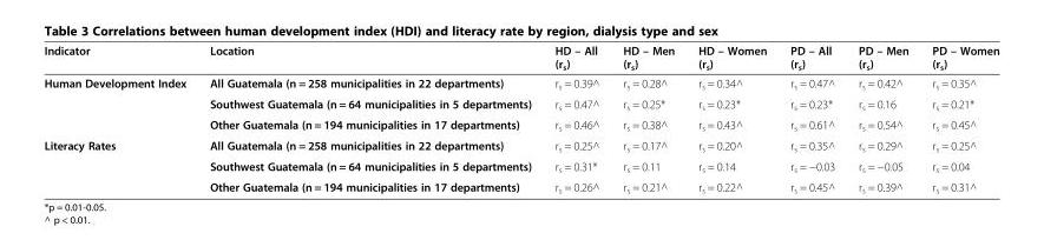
<table><thead><tr><td>Indicator</td><td>Location</td><td>HD – All (r<sub>s</sub>)</td><td>HD – Men (r<sub>s</sub>)</td><td>HD – Women (r<sub>s</sub>)</td><td>PD – All (r<sub>s</sub>)</td><td>PD – Men (r<sub>s</sub>)</td><td>PD – Women (r<sub>s</sub>)</td></tr></thead><tbody><tr><td rowspan="3">Human Development Index</td><td>All Guatemala (n = 258 municipalities in 22 departments)</td><td>r<sub>s</sub> = 0.39^</td><td>r<sub>s</sub> = 0.28^</td><td>r<sub>s</sub> = 0.34^</td><td>r<sub>s</sub> = 0.47^</td><td>r<sub>s</sub> = 0.42^</td><td>r<sub>s</sub> = 0.35^</td></tr><tr><td>Southwest Guatemala (n = 64 municipalities in 5 departments)</td><td>r<sub>s</sub> = 0.47^</td><td>r<sub>s</sub> = 0.25*</td><td>r<sub>s</sub> = 0.23*</td><td>r<sub>s</sub> = 0.23*</td><td>r<sub>s</sub> = 0.16</td><td>r<sub>s</sub> = 0.21*</td></tr><tr><td>Other Guatemala (n = 194 municipalities in 17 departments)</td><td>r<sub>s</sub> = 0.46^</td><td>r<sub>s</sub> = 0.38^</td><td>r<sub>s</sub> = 0.43^</td><td>r<sub>s</sub> = 0.61^</td><td>r<sub>s</sub> = 0.54^</td><td>r<sub>s</sub> = 0.45^</td></tr><tr><td rowspan="3">Literacy Rates</td><td>All Guatemala (n = 258 municipalities in 22 departments)</td><td>r<sub>s</sub> = 0.25^</td><td>r<sub>s</sub> = 0.17^</td><td>r<sub>s</sub> = 0.20^</td><td>r<sub>s</sub> = 0.35^</td><td>r<sub>s</sub> = 0.29^</td><td>r<sub>s</sub> = 0.25^</td></tr><tr><td>Southwest Guatemala (n = 64 municipalities in 5 departments)</td><td>r<sub>s</sub> = 0.31*</td><td>r<sub>s</sub> = 0.11</td><td>r<sub>s</sub> = 0.14</td><td>r<sub>s</sub> = −0.03</td><td>r<sub>s</sub> = −0.05</td><td>r<sub>s</sub> = 0.04</td></tr><tr><td>Other Guatemala (n = 194 municipalities in 17 departments)</td><td>r<sub>s</sub> = 0.26^</td><td>r<sub>s</sub> = 0.21^</td><td>r<sub>s</sub> = 0.22^</td><td>r<sub>s</sub> = 0.45^</td><td>r<sub>s</sub> = 0.39^</td><td>r<sub>s</sub> = 0.31^</td></tr></tbody></table>